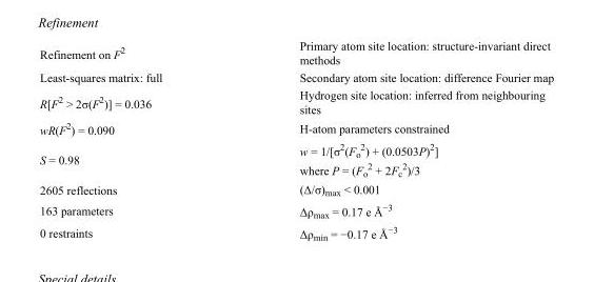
<table><tbody><tr><td>Refinement on F<sup>2</sup></td><td>Primary atom site location: structure-invariant direct methods</td></tr><tr><td>Least-squares matrix: full</td><td>Secondary atom site location: difference Fourier map</td></tr><tr><td>R[F<sup>2</sup> &gt; 2σ(F<sup>2</sup>)] = 0.036</td><td>Hydrogen site location: inferred from neighbouring sites</td></tr><tr><td>wR(F<sup>2</sup>) = 0.090</td><td>H-atom parameters constrained</td></tr><tr><td>S = 0.98</td><td>w = 1/[σ<sup>2</sup>(F<sub>o</sub> <sup>2</sup>) + (0.0503P)<sup>2</sup>] where P = (F<sub>o</sub> <sup>2</sup> + 2F<sub>c</sub> <sup>2</sup>)/3</td></tr><tr><td>2605 reflections</td><td>(Δ/σ)<sub>max</sub> &lt; 0.001</td></tr><tr><td>163 parameters</td><td>Δρ<sub>max</sub> = 0.17 e Å<sup>−3</sup></td></tr><tr><td>0 restraints</td><td>Δρ<sub>min</sub> = −0.17 e Å<sup>−3</sup></td></tr></tbody></table>